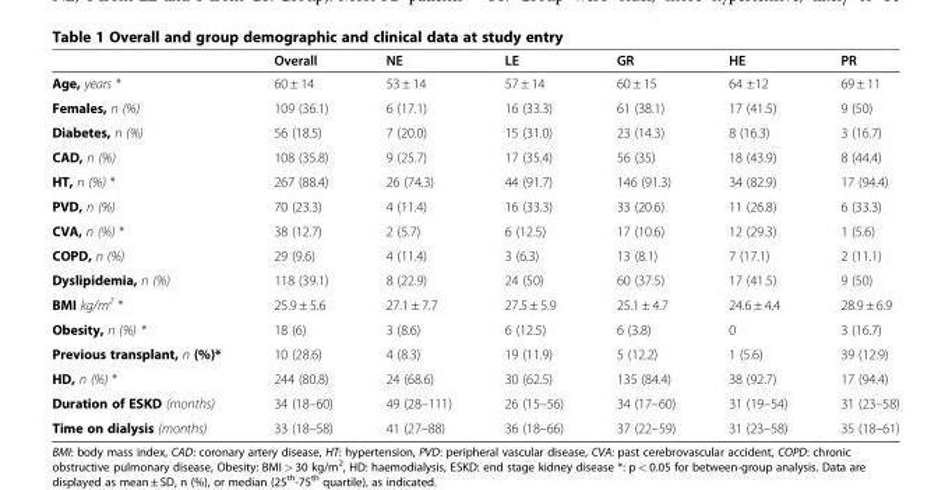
<table><thead><tr><td></td><td>Overall</td><td>NE</td><td>LE</td><td>GR</td><td>HE</td><td>PR</td></tr></thead><tbody><tr><td>Age, years *</td><td>60 ± 14</td><td>53 ± 14</td><td>57 ± 14</td><td>60 ± 15</td><td>64 ±12</td><td>69 ± 11</td></tr><tr><td>Females, n (%)</td><td>109 (36.1)</td><td>6 (17.1)</td><td>16 (33.3)</td><td>61 (38.1)</td><td>17 (41.5)</td><td>9 (50)</td></tr><tr><td>Diabetes, n (%)</td><td>56 (18.5)</td><td>7 (20.0)</td><td>15 (31.0)</td><td>23 (14.3)</td><td>8 (16.3)</td><td>3 (16.7)</td></tr><tr><td>CAD, n (%)</td><td>108 (35.8)</td><td>9 (25.7)</td><td>17 (35.4)</td><td>56 (35)</td><td>18 (43.9)</td><td>8 (44.4)</td></tr><tr><td>HT, n (%) *</td><td>267 (88.4)</td><td>26 (74.3)</td><td>44 (91.7)</td><td>146 (91.3)</td><td>34 (82.9)</td><td>17 (94.4)</td></tr><tr><td>PVD, n (%)</td><td>70 (23.3)</td><td>4 (11.4)</td><td>16 (33.3)</td><td>33 (20.6)</td><td>11 (26.8)</td><td>6 (33.3)</td></tr><tr><td>CVA, n (%) *</td><td>38 (12.7)</td><td>2 (5.7)</td><td>6 (12.5)</td><td>17 (10.6)</td><td>12 (29.3)</td><td>1 (5.6)</td></tr><tr><td>COPD, n (%)</td><td>29 (9.6)</td><td>4 (11.4)</td><td>3 (6.3)</td><td>13 (8.1)</td><td>7 (17.1)</td><td>2 (11.1)</td></tr><tr><td>Dyslipidemia, n (%)</td><td>118 (39.1)</td><td>8 (22.9)</td><td>24 (50)</td><td>60 (37.5)</td><td>17 (41.5)</td><td>9 (50)</td></tr><tr><td>BMI kg/m<sup>2</sup> *</td><td>25.9 ± 5.6</td><td>27.1 ± 7.7</td><td>27.5 ± 5.9</td><td>25.1 ± 4.7</td><td>24.6 ± 4.4</td><td>28.9 ± 6.9</td></tr><tr><td>Obesity, n (%) *</td><td>18 (6)</td><td>3 (8.6)</td><td>6 (12.5)</td><td>6 (3.8)</td><td>0</td><td>3 (16.7)</td></tr><tr><td>Previous transplant, n (%)*</td><td>10 (28.6)</td><td>4 (8.3)</td><td>19 (11.9)</td><td>5 (12.2)</td><td>1 (5.6)</td><td>39 (12.9)</td></tr><tr><td>HD, n (%) *</td><td>244 (80.8)</td><td>24 (68.6)</td><td>30 (62.5)</td><td>135 (84.4)</td><td>38 (92.7)</td><td>17 (94.4)</td></tr><tr><td>Duration of ESKD (months)</td><td>34 (18–60)</td><td>49 (28–111)</td><td>26 (15–56)</td><td>34 (17–60)</td><td>31 (19–54)</td><td>31 (23–58)</td></tr><tr><td>Time on dialysis (months)</td><td>33 (18–58)</td><td>41 (27–88)</td><td>36 (18–66)</td><td>37 (22–59)</td><td>31 (23–58)</td><td>35 (18–61)</td></tr></tbody></table>